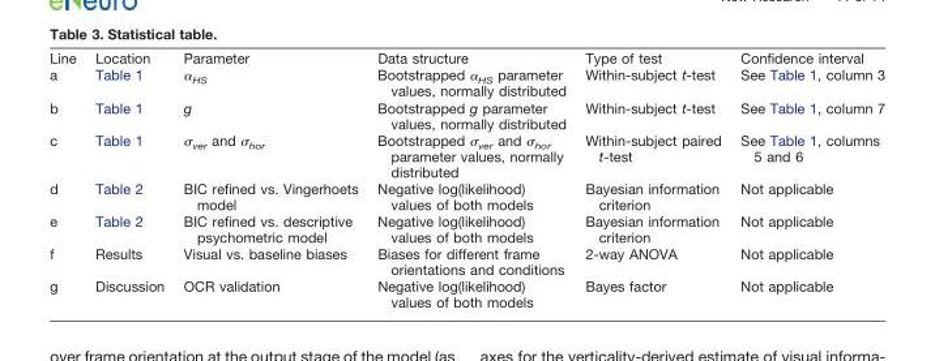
<table><thead><tr><td>Line</td><td>Location</td><td>Parameter</td><td>Data structure</td><td>Type of test</td><td>Confidence interval</td></tr></thead><tbody><tr><td>a</td><td>Table 1</td><td>α<sub>HS</sub></td><td>Bootstrapped α<sub>HS</sub> parameter values, normally distributed</td><td>Within-subject t-test</td><td>See Table 1, column 3</td></tr><tr><td>b</td><td>Table 1</td><td>g</td><td>Bootstrapped g parameter values, normally distributed</td><td>Within-subject t-test</td><td>See Table 1, column 7</td></tr><tr><td>c</td><td>Table 1</td><td>σ<sub>ver</sub> and σ<sub>hor</sub></td><td>Bootstrapped σ<sub>ver</sub> and σ<sub>hor</sub> parameter values, normally distributed</td><td>Within-subject paired t-test</td><td>See Table 1, columns 5 and 6</td></tr><tr><td>d</td><td>Table 2</td><td>BIC refined vs. Vingerhoets model</td><td>Negative log(likelihood) values of both models</td><td>Bayesian information criterion</td><td>Not applicable</td></tr><tr><td>e</td><td>Table 2</td><td>BIC refined vs. descriptive psychometric model</td><td>Negative log(likelihood) values of both models</td><td>Bayesian information criterion</td><td>Not applicable</td></tr><tr><td>f</td><td>Results</td><td>Visual vs. baseline biases</td><td>Biases for different frame orientations and conditions</td><td>2-way ANOVA</td><td>Not applicable</td></tr><tr><td>g</td><td>Discussion</td><td>OCR validation</td><td>Negative log(likelihood) values of both models</td><td>Bayes factor</td><td>Not applicable</td></tr></tbody></table>